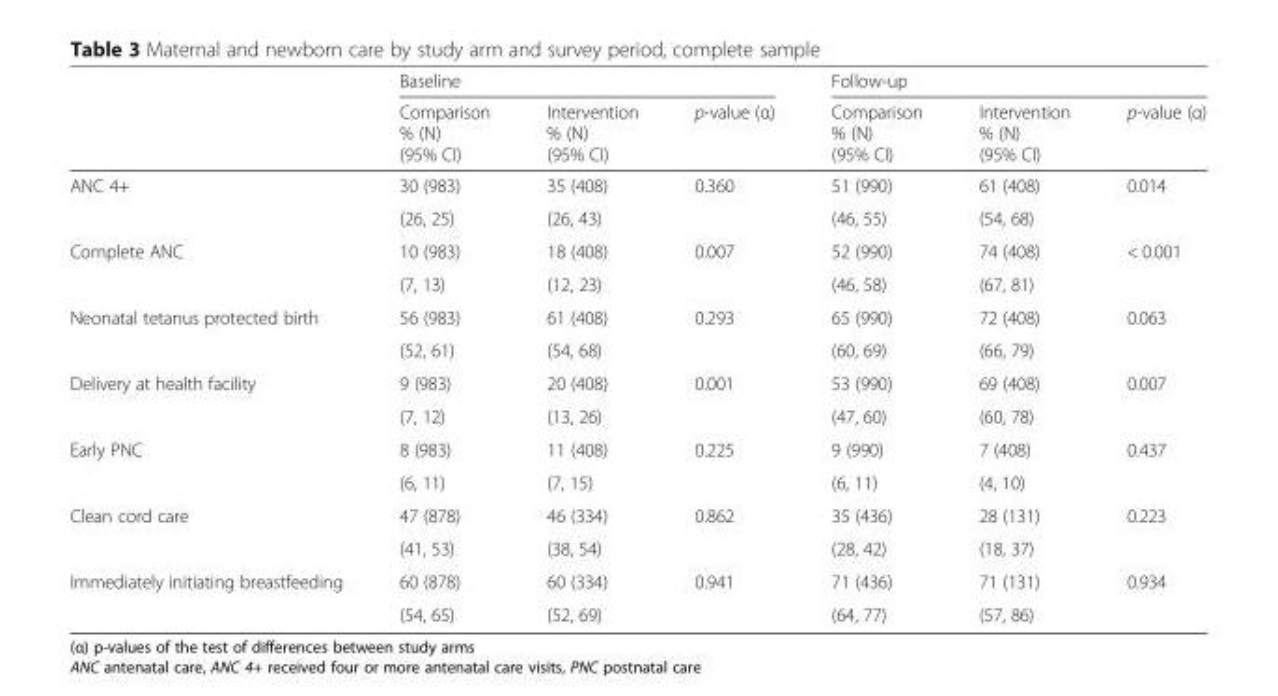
<table><thead><tr><td rowspan="2"></td><td colspan="3">Baseline</td><td colspan="3">Follow-up</td></tr><tr><td>Comparison % (N) (95% CI)</td><td>Intervention % (N) (95% CI)</td><td>p-value (α)</td><td>Comparison % (N) (95% CI)</td><td>Intervention % (N) (95% CI)</td><td>p-value (α)</td></tr></thead><tbody><tr><td rowspan="2">ANC 4+</td><td>30 (983)</td><td>35 (408)</td><td>0.360</td><td>51 (990)</td><td>61 (408)</td><td>0.014</td></tr><tr><td>(26, 25)</td><td>(26, 43)</td><td></td><td>(46, 55)</td><td>(54, 68)</td><td></td></tr><tr><td rowspan="2">Complete ANC</td><td>10 (983)</td><td>18 (408)</td><td>0.007</td><td>52 (990)</td><td>74 (408)</td><td>&lt; 0.001</td></tr><tr><td>(7, 13)</td><td>(12, 23)</td><td></td><td>(46, 58)</td><td>(67, 81)</td><td></td></tr><tr><td rowspan="2">Neonatal tetanus protected birth</td><td>56 (983)</td><td>61 (408)</td><td>0.293</td><td>65 (990)</td><td>72 (408)</td><td>0.063</td></tr><tr><td>(52, 61)</td><td>(54, 68)</td><td></td><td>(60, 69)</td><td>(66, 79)</td><td></td></tr><tr><td rowspan="2">Delivery at health facility</td><td>9 (983)</td><td>20 (408)</td><td>0.001</td><td>53 (990)</td><td>69 (408)</td><td>0.007</td></tr><tr><td>(7, 12)</td><td>(13, 26)</td><td></td><td>(47, 60)</td><td>(60, 78)</td><td></td></tr><tr><td rowspan="2">Early PNC</td><td>8 (983)</td><td>11 (408)</td><td>0.225</td><td>9 (990)</td><td>7 (408)</td><td>0.437</td></tr><tr><td>(6, 11)</td><td>(7, 15)</td><td></td><td>(6, 11)</td><td>(4, 10)</td><td></td></tr><tr><td rowspan="2">Clean cord care</td><td>47 (878)</td><td>46 (334)</td><td>0.862</td><td>35 (436)</td><td>28 (131)</td><td>0.223</td></tr><tr><td>(41, 53)</td><td>(38, 54)</td><td></td><td>(28, 42)</td><td>(18, 37)</td><td></td></tr><tr><td rowspan="2">Immediately initiating breastfeeding</td><td>60 (878)</td><td>60 (334)</td><td>0.941</td><td>71 (436)</td><td>71 (131)</td><td>0.934</td></tr><tr><td>(54, 65)</td><td>(52, 69)</td><td></td><td>(64, 77)</td><td>(57, 86)</td><td></td></tr></tbody></table>